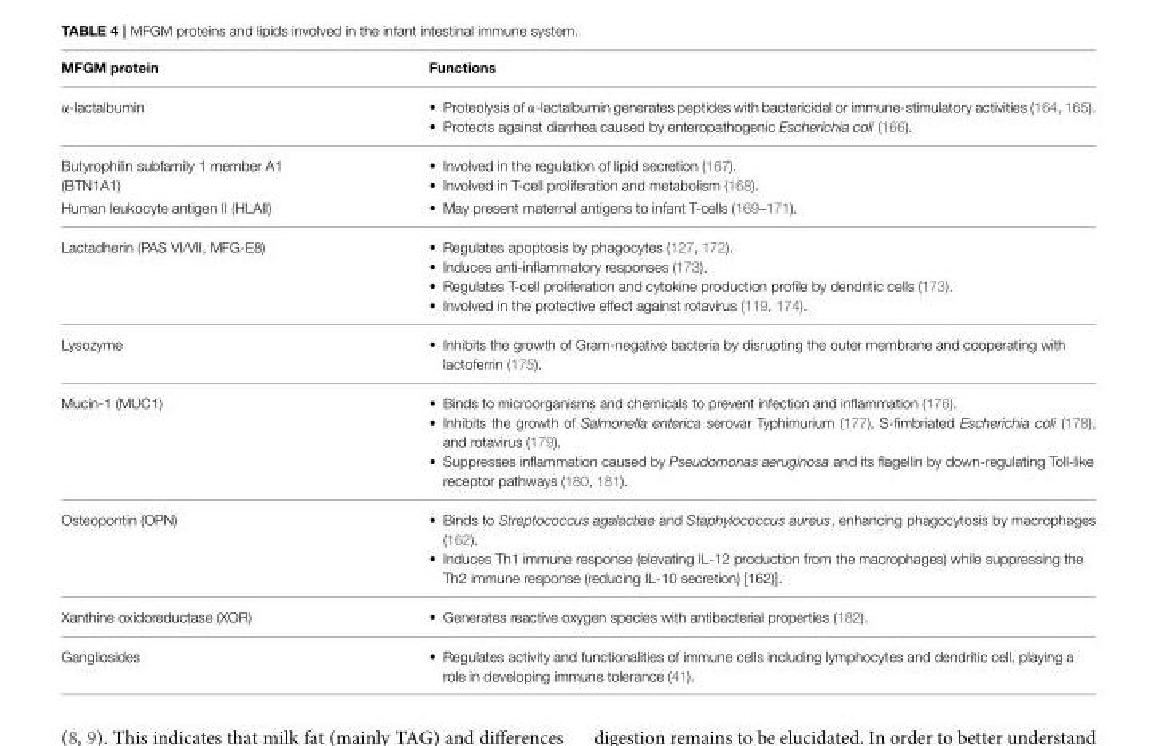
<table><thead><tr><td>MFGM protein</td><td>Functions</td></tr></thead><tbody><tr><td>α-lactalbumin</td><td>• Proteolysis of α-lactalbumin generates peptides with bactericidal or immune-stimulatory activities (164, 165). • Protects against diarrhea caused by enteropathogenic Escherichia coli (166).</td></tr><tr><td>Butyrophilin subfamily 1 member A1 (BTN1A1)</td><td>• Involved in the regulation of lipid secretion (167). • Involved in T-cell proliferation and metabolism (168).</td></tr><tr><td>Human leukocyte antigen II (HLAII)</td><td>• May present maternal antigens to infant T-cells (169–171).</td></tr><tr><td>Lactadherin (PAS VI/VII, MFG-E8)</td><td>• Regulates apoptosis by phagocytes (127, 172). • Induces anti-inflammatory responses (173). • Regulates T-cell proliferation and cytokine production profile by dendritic cells (173). • Involved in the protective effect against rotavirus (119, 174).</td></tr><tr><td>Lysozyme</td><td>• Inhibits the growth of Gram-negative bacteria by disrupting the outer membrane and cooperating with lactoferrin (175).</td></tr><tr><td>Mucin-1 (MUC1)</td><td>• Binds to microorganisms and chemicals to prevent infection and inflammation (176). • Inhibits the growth of Salmonella enterica serovar Typhimurium (177), S-fimbriated Escherichia coli (178), and rotavirus (179). • Suppresses inflammation caused by Pseudomonas aeruginosa and its flagellin by down-regulating Toll-like receptor pathways (180, 181).</td></tr><tr><td>Osteopontin (OPN)</td><td>• Binds to Streptococcus agalactiae and Staphylococcus aureus, enhancing phagocytosis by macrophages (162). • Induces Th1 immune response (elevating IL-12 production from the macrophages) while suppressing the Th2 immune response (reducing IL-10 secretion) [162)].</td></tr><tr><td>Xanthine oxidoreductase (XOR)</td><td>• Generates reactive oxygen species with antibacterial properties (182).</td></tr><tr><td>Gangliosides</td><td>• Regulates activity and functionalities of immune cells including lymphocytes and dendritic cell, playing a role in developing immune tolerance (41).</td></tr></tbody></table>